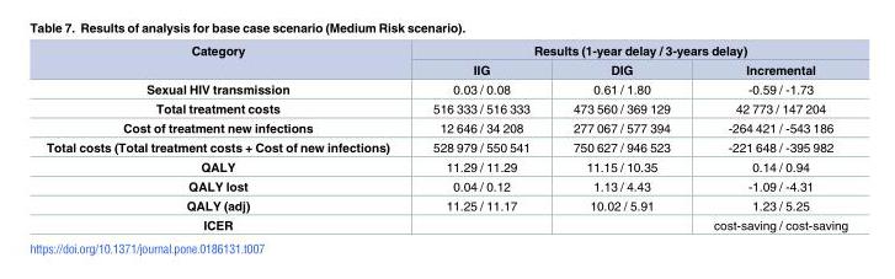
<table><thead><tr><td rowspan="2">Category</td><td colspan="3">Results (1-year delay / 3-years delay)</td></tr><tr><td>IIG</td><td>DIG</td><td>Incremental</td></tr></thead><tbody><tr><td>Sexual HIV transmission</td><td>0.03 / 0.08</td><td>0.61 / 1.80</td><td>-0.59 / -1.73</td></tr><tr><td>Total treatment costs</td><td>516 333 / 516 333</td><td>473 560 / 369 129</td><td>42 773 / 147 204</td></tr><tr><td>Cost of treatment new infections</td><td>12 646 / 34 208</td><td>277 067 / 577 394</td><td>-264 421 / -543 186</td></tr><tr><td>Total costs (Total treatment costs + Cost of new infections)</td><td>528 979 / 550 541</td><td>750 627 / 946 523</td><td>-221 648 / -395 982</td></tr><tr><td>QALY</td><td>11.29 / 11.29</td><td>11.15 / 10.35</td><td>0.14 / 0.94</td></tr><tr><td>QALY lost</td><td>0.04 / 0.12</td><td>1.13 / 4.43</td><td>-1.09 / -4.31</td></tr><tr><td>QALY (adj)</td><td>11.25 / 11.17</td><td>10.02 / 5.91</td><td>1.23 / 5.25</td></tr><tr><td>ICER</td><td></td><td></td><td>cost-saving / cost-saving</td></tr></tbody></table>